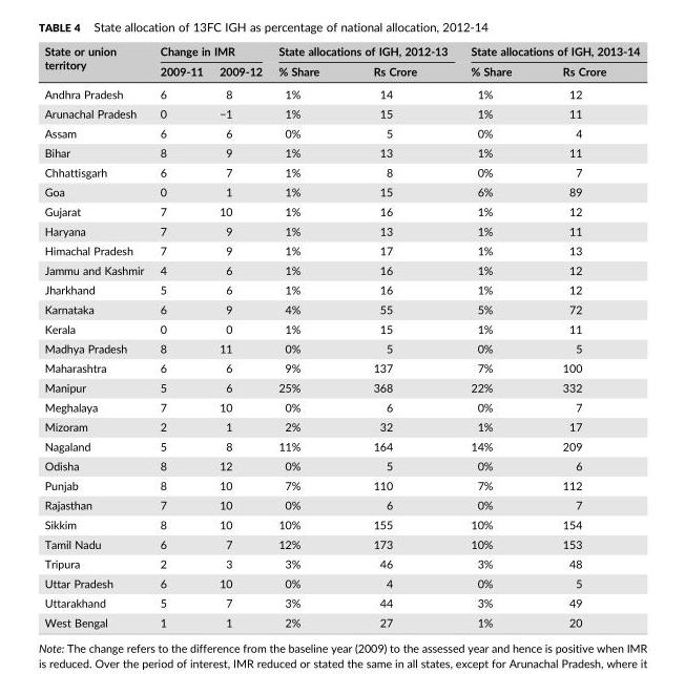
<table><thead><tr><td rowspan="2">State or union territory</td><td colspan="2">Change in IMR</td><td colspan="2">State allocations of IGH, 2012‐13</td><td colspan="2">State allocations of IGH, 2013‐14</td></tr><tr><td>2009‐11</td><td>2009‐12</td><td>% Share</td><td>Rs Crore</td><td>% Share</td><td>Rs Crore</td></tr></thead><tbody><tr><td>Andhra Pradesh</td><td>6</td><td>8</td><td>1%</td><td>14</td><td>1%</td><td>12</td></tr><tr><td>Arunachal Pradesh</td><td>0</td><td>−1</td><td>1%</td><td>15</td><td>1%</td><td>11</td></tr><tr><td>Assam</td><td>6</td><td>6</td><td>0%</td><td>5</td><td>0%</td><td>4</td></tr><tr><td>Bihar</td><td>8</td><td>9</td><td>1%</td><td>13</td><td>1%</td><td>11</td></tr><tr><td>Chhattisgarh</td><td>6</td><td>7</td><td>1%</td><td>8</td><td>0%</td><td>7</td></tr><tr><td>Goa</td><td>0</td><td>1</td><td>1%</td><td>15</td><td>6%</td><td>89</td></tr><tr><td>Gujarat</td><td>7</td><td>10</td><td>1%</td><td>16</td><td>1%</td><td>12</td></tr><tr><td>Haryana</td><td>7</td><td>9</td><td>1%</td><td>13</td><td>1%</td><td>11</td></tr><tr><td>Himachal Pradesh</td><td>7</td><td>9</td><td>1%</td><td>17</td><td>1%</td><td>13</td></tr><tr><td>Jammu and Kashmir</td><td>4</td><td>6</td><td>1%</td><td>16</td><td>1%</td><td>12</td></tr><tr><td>Jharkhand</td><td>5</td><td>6</td><td>1%</td><td>16</td><td>1%</td><td>12</td></tr><tr><td>Karnataka</td><td>6</td><td>9</td><td>4%</td><td>55</td><td>5%</td><td>72</td></tr><tr><td>Kerala</td><td>0</td><td>0</td><td>1%</td><td>15</td><td>1%</td><td>11</td></tr><tr><td>Madhya Pradesh</td><td>8</td><td>11</td><td>0%</td><td>5</td><td>0%</td><td>5</td></tr><tr><td>Maharashtra</td><td>6</td><td>6</td><td>9%</td><td>137</td><td>7%</td><td>100</td></tr><tr><td>Manipur</td><td>5</td><td>6</td><td>25%</td><td>368</td><td>22%</td><td>332</td></tr><tr><td>Meghalaya</td><td>7</td><td>10</td><td>0%</td><td>6</td><td>0%</td><td>7</td></tr><tr><td>Mizoram</td><td>2</td><td>1</td><td>2%</td><td>32</td><td>1%</td><td>17</td></tr><tr><td>Nagaland</td><td>5</td><td>8</td><td>11%</td><td>164</td><td>14%</td><td>209</td></tr><tr><td>Odisha</td><td>8</td><td>12</td><td>0%</td><td>5</td><td>0%</td><td>6</td></tr><tr><td>Punjab</td><td>8</td><td>10</td><td>7%</td><td>110</td><td>7%</td><td>112</td></tr><tr><td>Rajasthan</td><td>7</td><td>10</td><td>0%</td><td>6</td><td>0%</td><td>7</td></tr><tr><td>Sikkim</td><td>8</td><td>10</td><td>10%</td><td>155</td><td>10%</td><td>154</td></tr><tr><td>Tamil Nadu</td><td>6</td><td>7</td><td>12%</td><td>173</td><td>10%</td><td>153</td></tr><tr><td>Tripura</td><td>2</td><td>3</td><td>3%</td><td>46</td><td>3%</td><td>48</td></tr><tr><td>Uttar Pradesh</td><td>6</td><td>10</td><td>0%</td><td>4</td><td>0%</td><td>5</td></tr><tr><td>Uttarakhand</td><td>5</td><td>7</td><td>3%</td><td>44</td><td>3%</td><td>49</td></tr><tr><td>West Bengal</td><td>1</td><td>1</td><td>2%</td><td>27</td><td>1%</td><td>20</td></tr></tbody></table>